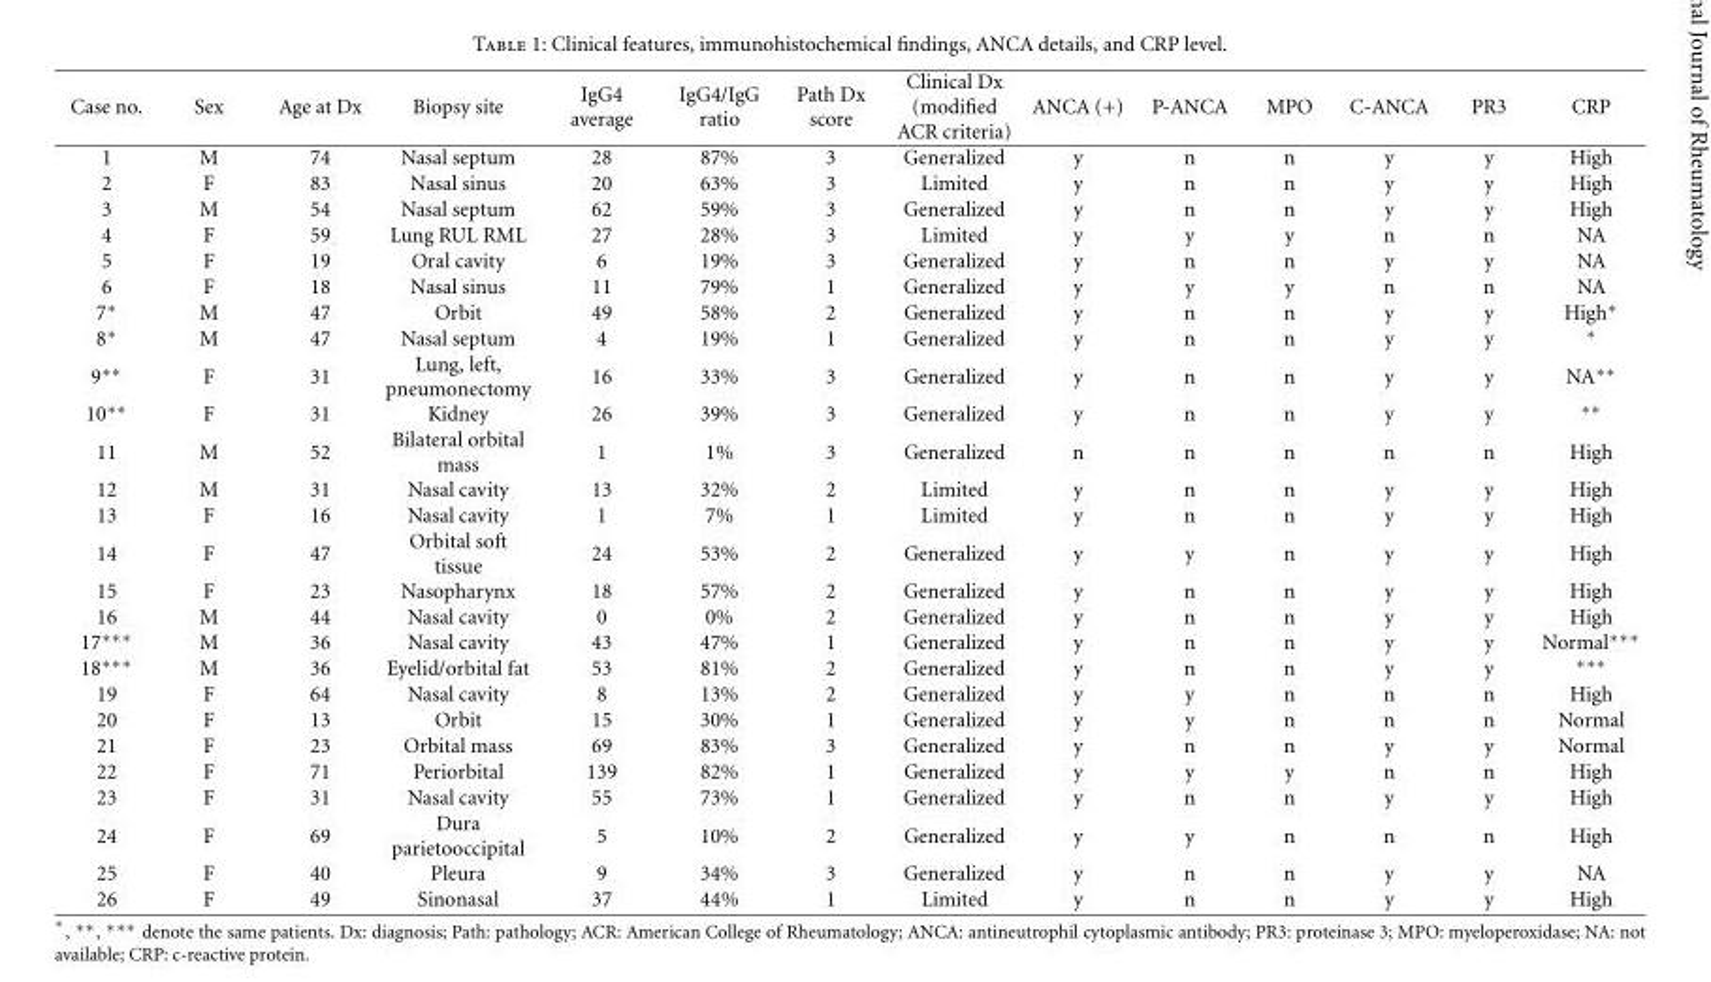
<table><thead><tr><td>Case no.</td><td>Sex</td><td>Age at Dx</td><td>Biopsy site</td><td>IgG4 average</td><td>IgG4/IgG ratio</td><td>Path Dx score</td><td>Clinical Dx (modified ACR criteria)</td><td>ANCA (+)</td><td>P-ANCA</td><td>MPO</td><td>C-ANCA</td><td>PR3</td><td>CRP</td></tr></thead><tbody><tr><td>1</td><td>M</td><td>74</td><td>Nasal septum</td><td>28</td><td>87%</td><td>3</td><td>Generalized</td><td>y</td><td>n</td><td>n</td><td>y</td><td>y</td><td>High</td></tr><tr><td>2</td><td>F</td><td>83</td><td>Nasal sinus</td><td>20</td><td>63%</td><td>3</td><td>Limited</td><td>y</td><td>n</td><td>n</td><td>y</td><td>y</td><td>High</td></tr><tr><td>3</td><td>M</td><td>54</td><td>Nasal septum</td><td>62</td><td>59%</td><td>3</td><td>Generalized</td><td>y</td><td>n</td><td>n</td><td>y</td><td>y</td><td>High</td></tr><tr><td>4</td><td>F</td><td>59</td><td>Lung RUL RML</td><td>27</td><td>28%</td><td>3</td><td>Limited</td><td>y</td><td>y</td><td>y</td><td>n</td><td>n</td><td>NA</td></tr><tr><td>5</td><td>F</td><td>19</td><td>Oral cavity</td><td>6</td><td>19%</td><td>3</td><td>Generalized</td><td>y</td><td>n</td><td>n</td><td>y</td><td>y</td><td>NA</td></tr><tr><td>6</td><td>F</td><td>18</td><td>Nasal sinus</td><td>11</td><td>79%</td><td>1</td><td>Generalized</td><td>y</td><td>y</td><td>y</td><td>n</td><td>n</td><td>NA</td></tr><tr><td>7∗</td><td>M</td><td>47</td><td>Orbit</td><td>49</td><td>58%</td><td>2</td><td>Generalized</td><td>y</td><td>n</td><td>n</td><td>y</td><td>y</td><td>High∗</td></tr><tr><td>8∗</td><td>M</td><td>47</td><td>Nasal septum</td><td>4</td><td>19%</td><td>1</td><td>Generalized</td><td>y</td><td>n</td><td>n</td><td>y</td><td>y</td><td>∗</td></tr><tr><td>9∗∗</td><td>F</td><td>31</td><td>Lung, left, pneumonectomy</td><td>16</td><td>33%</td><td>3</td><td>Generalized</td><td>y</td><td>n</td><td>n</td><td>y</td><td>y</td><td>NA∗∗</td></tr><tr><td>10∗∗</td><td>F</td><td>31</td><td>Kidney</td><td>26</td><td>39%</td><td>3</td><td>Generalized</td><td>y</td><td>n</td><td>n</td><td>y</td><td>y</td><td>∗∗</td></tr><tr><td>11</td><td>M</td><td>52</td><td>Bilateral orbital mass</td><td>1</td><td>1%</td><td>3</td><td>Generalized</td><td>n</td><td>n</td><td>n</td><td>n</td><td>n</td><td>High</td></tr><tr><td>12</td><td>M</td><td>31</td><td>Nasal cavity</td><td>13</td><td>32%</td><td>2</td><td>Limited</td><td>y</td><td>n</td><td>n</td><td>y</td><td>y</td><td>High</td></tr><tr><td>13</td><td>F</td><td>16</td><td>Nasal cavity</td><td>1</td><td>7%</td><td>1</td><td>Limited</td><td>y</td><td>n</td><td>n</td><td>y</td><td>y</td><td>High</td></tr><tr><td>14</td><td>F</td><td>47</td><td>Orbital soft tissue</td><td>24</td><td>53%</td><td>2</td><td>Generalized</td><td>y</td><td>y</td><td>n</td><td>y</td><td>y</td><td>High</td></tr><tr><td>15</td><td>F</td><td>23</td><td>Nasopharynx</td><td>18</td><td>57%</td><td>2</td><td>Generalized</td><td>y</td><td>n</td><td>n</td><td>y</td><td>y</td><td>High</td></tr><tr><td>16</td><td>M</td><td>44</td><td>Nasal cavity</td><td>0</td><td>0%</td><td>2</td><td>Generalized</td><td>y</td><td>n</td><td>n</td><td>y</td><td>y</td><td>High</td></tr><tr><td>17∗∗∗</td><td>M</td><td>36</td><td>Nasal cavity</td><td>43</td><td>47%</td><td>1</td><td>Generalized</td><td>y</td><td>n</td><td>n</td><td>y</td><td>y</td><td>Normal∗∗∗</td></tr><tr><td>18∗∗∗</td><td>M</td><td>36</td><td>Eyelid/orbital fat</td><td>53</td><td>81%</td><td>2</td><td>Generalized</td><td>y</td><td>n</td><td>n</td><td>y</td><td>y</td><td>∗∗∗</td></tr><tr><td>19</td><td>F</td><td>64</td><td>Nasal cavity</td><td>8</td><td>13%</td><td>2</td><td>Generalized</td><td>y</td><td>y</td><td>n</td><td>n</td><td>n</td><td>High</td></tr><tr><td>20</td><td>F</td><td>13</td><td>Orbit</td><td>15</td><td>30%</td><td>1</td><td>Generalized</td><td>y</td><td>y</td><td>n</td><td>n</td><td>n</td><td>Normal</td></tr><tr><td>21</td><td>F</td><td>23</td><td>Orbital mass</td><td>69</td><td>83%</td><td>3</td><td>Generalized</td><td>y</td><td>n</td><td>n</td><td>y</td><td>y</td><td>Normal</td></tr><tr><td>22</td><td>F</td><td>71</td><td>Periorbital</td><td>139</td><td>82%</td><td>1</td><td>Generalized</td><td>y</td><td>y</td><td>y</td><td>n</td><td>n</td><td>High</td></tr><tr><td>23</td><td>F</td><td>31</td><td>Nasal cavity</td><td>55</td><td>73%</td><td>1</td><td>Generalized</td><td>y</td><td>n</td><td>n</td><td>y</td><td>y</td><td>High</td></tr><tr><td>24</td><td>F</td><td>69</td><td>Dura parietooccipital</td><td>5</td><td>10%</td><td>2</td><td>Generalized</td><td>y</td><td>y</td><td>n</td><td>n</td><td>n</td><td>High</td></tr><tr><td>25</td><td>F</td><td>40</td><td>Pleura</td><td>9</td><td>34%</td><td>3</td><td>Generalized</td><td>y</td><td>n</td><td>n</td><td>y</td><td>y</td><td>NA</td></tr><tr><td>26</td><td>F</td><td>49</td><td>Sinonasal</td><td>37</td><td>44%</td><td>1</td><td>Limited</td><td>y</td><td>n</td><td>n</td><td>y</td><td>y</td><td>High</td></tr></tbody></table>